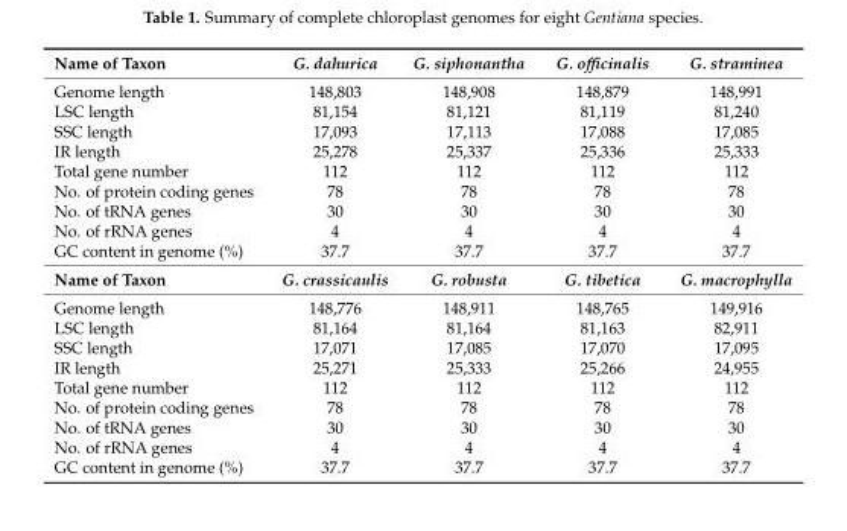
<table><tbody><tr><td>Name of Taxon</td><td>G. dahurica</td><td>G. siphonantha</td><td>G. officinalis</td><td>G. straminea</td></tr><tr><td>Genome length</td><td>148,803</td><td>148,908</td><td>148,879</td><td>148,991</td></tr><tr><td>LSC length</td><td>81,154</td><td>81,121</td><td>81,119</td><td>81,240</td></tr><tr><td>SSC length</td><td>17,093</td><td>17,113</td><td>17,088</td><td>17,085</td></tr><tr><td>IR length</td><td>25,278</td><td>25,337</td><td>25,336</td><td>25,333</td></tr><tr><td>Total gene number</td><td>112</td><td>112</td><td>112</td><td>112</td></tr><tr><td>No. of protein coding genes</td><td>78</td><td>78</td><td>78</td><td>78</td></tr><tr><td>No. of tRNA genes</td><td>30</td><td>30</td><td>30</td><td>30</td></tr><tr><td>No. of rRNA genes</td><td>4</td><td>4</td><td>4</td><td>4</td></tr><tr><td>GC content in genome (%)</td><td>37.7</td><td>37.7</td><td>37.7</td><td>37.7</td></tr><tr><td>Name of Taxon</td><td>G. crassicaulis</td><td>G. robusta</td><td>G. tibetica</td><td>G. macrophylla</td></tr><tr><td>Genome length</td><td>148,776</td><td>148,911</td><td>148,765</td><td>149,916</td></tr><tr><td>LSC length</td><td>81,164</td><td>81,164</td><td>81,163</td><td>82,911</td></tr><tr><td>SSC length</td><td>17,071</td><td>17,085</td><td>17,070</td><td>17,095</td></tr><tr><td>IR length</td><td>25,271</td><td>25,333</td><td>25,266</td><td>24,955</td></tr><tr><td>Total gene number</td><td>112</td><td>112</td><td>112</td><td>112</td></tr><tr><td>No. of protein coding genes</td><td>78</td><td>78</td><td>78</td><td>78</td></tr><tr><td>No. of tRNA genes</td><td>30</td><td>30</td><td>30</td><td>30</td></tr><tr><td>No. of rRNA genes</td><td>4</td><td>4</td><td>4</td><td>4</td></tr><tr><td>GC content in genome (%)</td><td>37.7</td><td>37.7</td><td>37.7</td><td>37.7</td></tr></tbody></table>